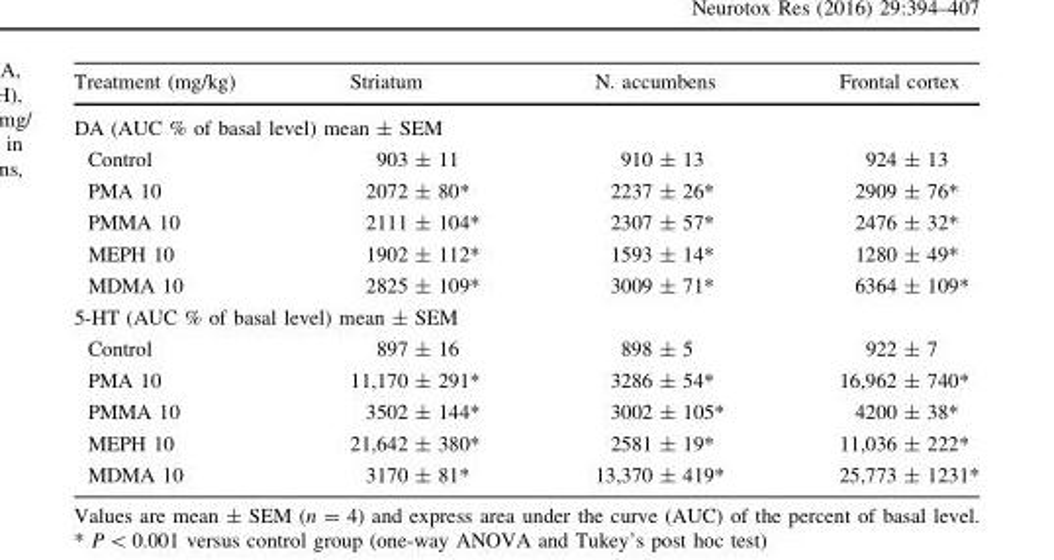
<table><thead><tr><td>Treatment (mg/kg)</td><td>Striatum</td><td>N. accumbens</td><td>Frontal cortex</td></tr></thead><tbody><tr><td colspan="4">DA (AUC % of basal level) mean ± SEM</td></tr><tr><td>Control</td><td>903 ± 11</td><td>910 ± 13</td><td>924 ± 13</td></tr><tr><td>PMA 10</td><td>2072 ± 80*</td><td>2237 ± 26*</td><td>2909 ± 76*</td></tr><tr><td>PMMA 10</td><td>2111 ± 104*</td><td>2307 ± 57*</td><td>2476 ± 32*</td></tr><tr><td>MEPH 10</td><td>1902 ± 112*</td><td>1593 ± 14*</td><td>1280 ± 49*</td></tr><tr><td>MDMA 10</td><td>2825 ± 109*</td><td>3009 ± 71*</td><td>6364 ± 109*</td></tr><tr><td colspan="4">5-HT (AUC % of basal level) mean ± SEM</td></tr><tr><td>Control</td><td>897 ± 16</td><td>898 ± 5</td><td>922 ± 7</td></tr><tr><td>PMA 10</td><td>11,170 ± 291*</td><td>3286 ± 54*</td><td>16,962 ± 740*</td></tr><tr><td>PMMA 10</td><td>3502 ± 144*</td><td>3002 ± 105*</td><td>4200 ± 38*</td></tr><tr><td>MEPH 10</td><td>21,642 ± 380*</td><td>2581 ± 19*</td><td>11,036 ± 222*</td></tr><tr><td>MDMA 10</td><td>3170 ± 81*</td><td>13,370 ± 419*</td><td>25,773 ± 1231*</td></tr></tbody></table>